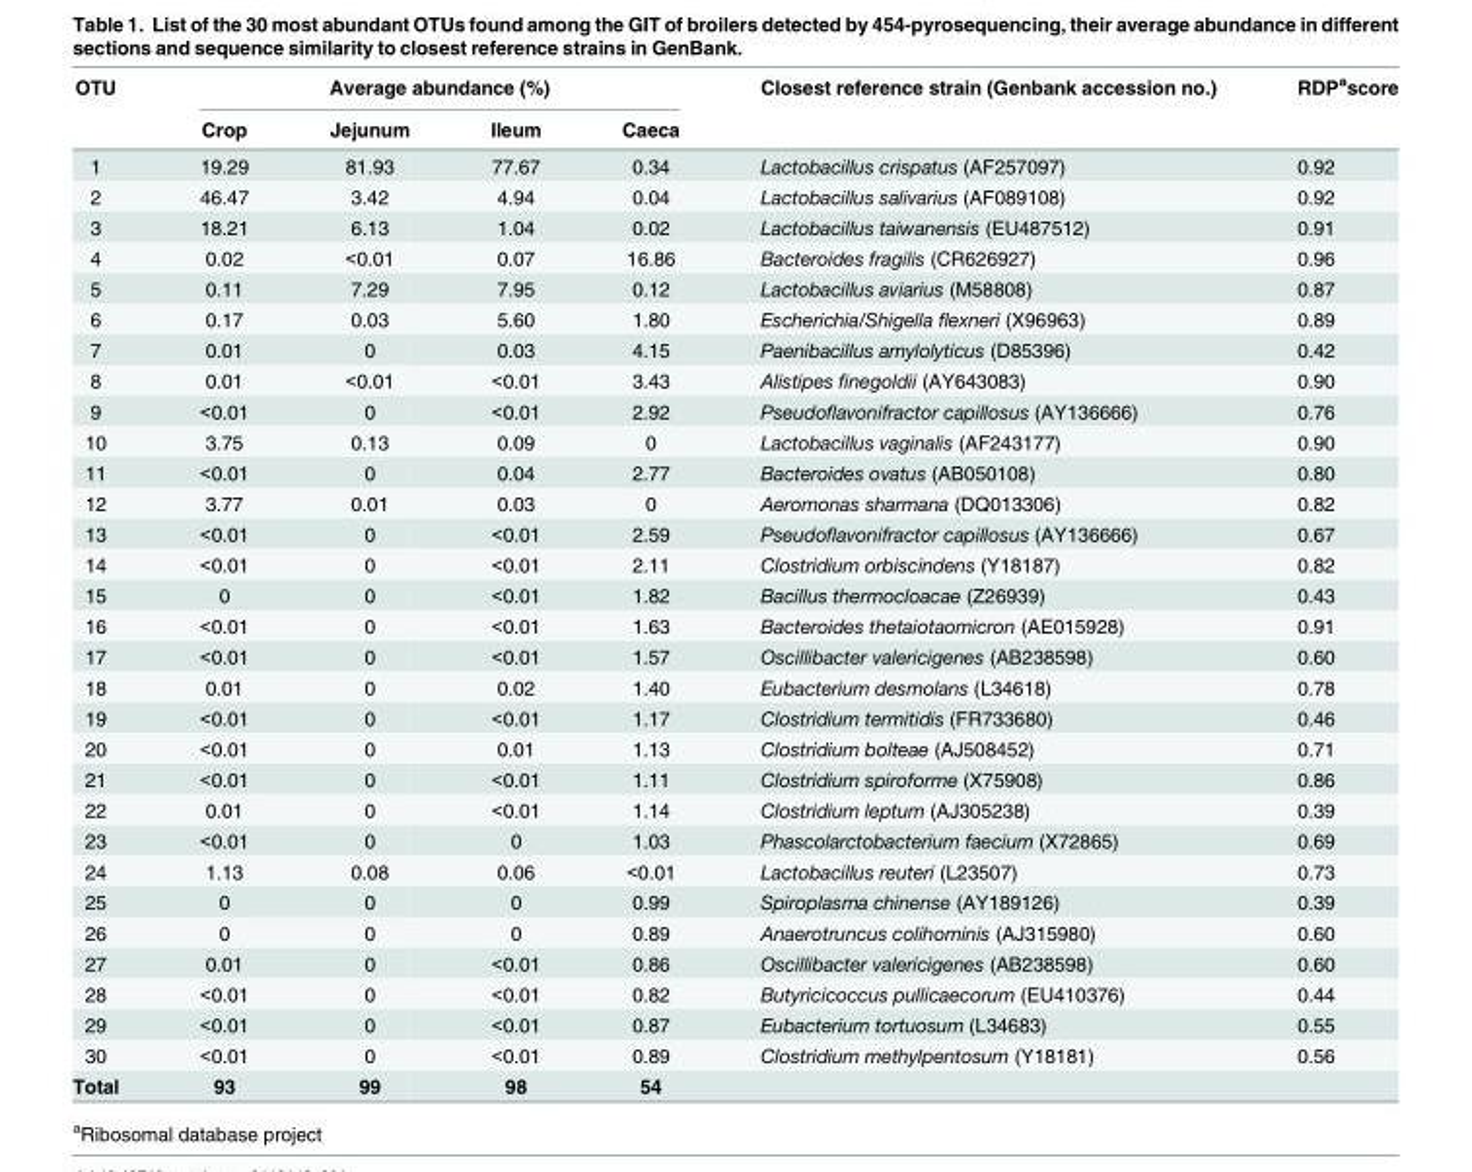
<table><thead><tr><td rowspan="2">OTU</td><td colspan="4">Average abundance (%)</td><td rowspan="2">Closest reference strain (Genbank accession no.)</td><td rowspan="2">RDP<sup>a</sup>score</td></tr><tr><td>Crop</td><td>Jejunum</td><td>Ileum</td><td>Caeca</td></tr></thead><tbody><tr><td>1</td><td>19.29</td><td>81.93</td><td>77.67</td><td>0.34</td><td>Lactobacillus crispatus (AF257097)</td><td>0.92</td></tr><tr><td>2</td><td>46.47</td><td>3.42</td><td>4.94</td><td>0.04</td><td>Lactobacillus salivarius (AF089108)</td><td>0.92</td></tr><tr><td>3</td><td>18.21</td><td>6.13</td><td>1.04</td><td>0.02</td><td>Lactobacillus taiwanensis (EU487512)</td><td>0.91</td></tr><tr><td>4</td><td>0.02</td><td>&lt;0.01</td><td>0.07</td><td>16.86</td><td>Bacteroides fragilis (CR626927)</td><td>0.96</td></tr><tr><td>5</td><td>0.11</td><td>7.29</td><td>7.95</td><td>0.12</td><td>Lactobacillus aviarius (M58808)</td><td>0.87</td></tr><tr><td>6</td><td>0.17</td><td>0.03</td><td>5.60</td><td>1.80</td><td>Escherichia/Shigella flexneri (X96963)</td><td>0.89</td></tr><tr><td>7</td><td>0.01</td><td>0</td><td>0.03</td><td>4.15</td><td>Paenibacillus amylolyticus (D85396)</td><td>0.42</td></tr><tr><td>8</td><td>0.01</td><td>&lt;0.01</td><td>&lt;0.01</td><td>3.43</td><td>Alistipes finegoldii (AY643083)</td><td>0.90</td></tr><tr><td>9</td><td>&lt;0.01</td><td>0</td><td>&lt;0.01</td><td>2.92</td><td>Pseudoflavonifractor capillosus (AY136666)</td><td>0.76</td></tr><tr><td>10</td><td>3.75</td><td>0.13</td><td>0.09</td><td>0</td><td>Lactobacillus vaginalis (AF243177)</td><td>0.90</td></tr><tr><td>11</td><td>&lt;0.01</td><td>0</td><td>0.04</td><td>2.77</td><td>Bacteroides ovatus (AB050108)</td><td>0.80</td></tr><tr><td>12</td><td>3.77</td><td>0.01</td><td>0.03</td><td>0</td><td>Aeromonas sharmana (DQ013306)</td><td>0.82</td></tr><tr><td>13</td><td>&lt;0.01</td><td>0</td><td>&lt;0.01</td><td>2.59</td><td>Pseudoflavonifractor capillosus (AY136666)</td><td>0.67</td></tr><tr><td>14</td><td>&lt;0.01</td><td>0</td><td>&lt;0.01</td><td>2.11</td><td>Clostridium orbiscindens (Y18187)</td><td>0.82</td></tr><tr><td>15</td><td>0</td><td>0</td><td>&lt;0.01</td><td>1.82</td><td>Bacillus thermocloacae (Z26939)</td><td>0.43</td></tr><tr><td>16</td><td>&lt;0.01</td><td>0</td><td>&lt;0.01</td><td>1.63</td><td>Bacteroides thetaiotaomicron (AE015928)</td><td>0.91</td></tr><tr><td>17</td><td>&lt;0.01</td><td>0</td><td>&lt;0.01</td><td>1.57</td><td>Oscillibacter valericigenes (AB238598)</td><td>0.60</td></tr><tr><td>18</td><td>0.01</td><td>0</td><td>0.02</td><td>1.40</td><td>Eubacterium desmolans (L34618)</td><td>0.78</td></tr><tr><td>19</td><td>&lt;0.01</td><td>0</td><td>&lt;0.01</td><td>1.17</td><td>Clostridium termitidis (FR733680)</td><td>0.46</td></tr><tr><td>20</td><td>&lt;0.01</td><td>0</td><td>0.01</td><td>1.13</td><td>Clostridium bolteae (AJ508452)</td><td>0.71</td></tr><tr><td>21</td><td>&lt;0.01</td><td>0</td><td>&lt;0.01</td><td>1.11</td><td>Clostridium spiroforme (X75908)</td><td>0.86</td></tr><tr><td>22</td><td>0.01</td><td>0</td><td>&lt;0.01</td><td>1.14</td><td>Clostridium leptum (AJ305238)</td><td>0.39</td></tr><tr><td>23</td><td>&lt;0.01</td><td>0</td><td>0</td><td>1.03</td><td>Phascolarctobacterium faecium (X72865)</td><td>0.69</td></tr><tr><td>24</td><td>1.13</td><td>0.08</td><td>0.06</td><td>&lt;0.01</td><td>Lactobacillus reuteri (L23507)</td><td>0.73</td></tr><tr><td>25</td><td>0</td><td>0</td><td>0</td><td>0.99</td><td>Spiroplasma chinense (AY189126)</td><td>0.39</td></tr><tr><td>26</td><td>0</td><td>0</td><td>0</td><td>0.89</td><td>Anaerotruncus colihominis (AJ315980)</td><td>0.60</td></tr><tr><td>27</td><td>0.01</td><td>0</td><td>&lt;0.01</td><td>0.86</td><td>Oscillibacter valericigenes (AB238598)</td><td>0.60</td></tr><tr><td>28</td><td>&lt;0.01</td><td>0</td><td>&lt;0.01</td><td>0.82</td><td>Butyricicoccus pullicaecorum (EU410376)</td><td>0.44</td></tr><tr><td>29</td><td>&lt;0.01</td><td>0</td><td>&lt;0.01</td><td>0.87</td><td>Eubacterium tortuosum (L34683)</td><td>0.55</td></tr><tr><td>30</td><td>&lt;0.01</td><td>0</td><td>&lt;0.01</td><td>0.89</td><td>Clostridium methylpentosum (Y18181)</td><td>0.56</td></tr><tr><td>Total</td><td>93</td><td>99</td><td>98</td><td>54</td><td></td><td></td></tr></tbody></table>